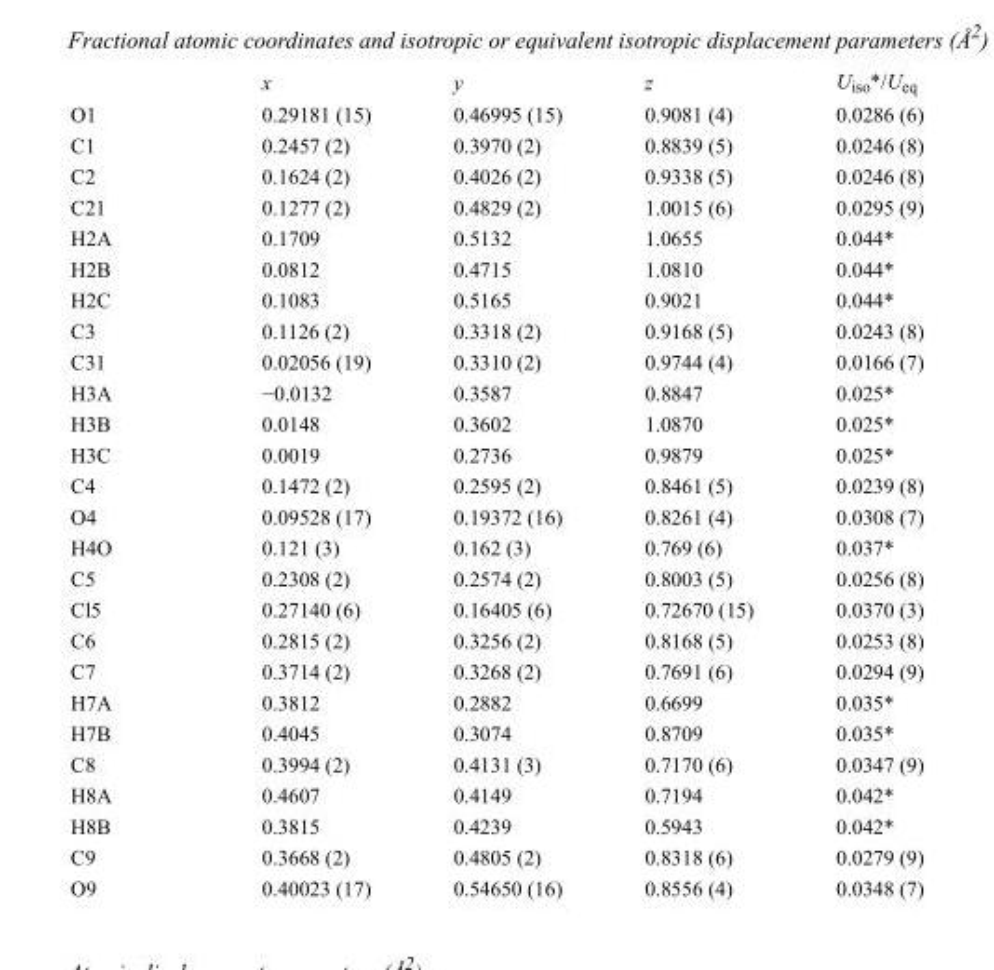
<table><thead><tr><td></td><td>x</td><td>y</td><td>z</td><td>U<sub>iso</sub>*/U<sub>eq</sub></td></tr></thead><tbody><tr><td>O1</td><td>0.29181 (15)</td><td>0.46995 (15)</td><td>0.9081 (4)</td><td>0.0286 (6)</td></tr><tr><td>C1</td><td>0.2457 (2)</td><td>0.3970 (2)</td><td>0.8839 (5)</td><td>0.0246 (8)</td></tr><tr><td>C2</td><td>0.1624 (2)</td><td>0.4026 (2)</td><td>0.9338 (5)</td><td>0.0246 (8)</td></tr><tr><td>C21</td><td>0.1277 (2)</td><td>0.4829 (2)</td><td>1.0015 (6)</td><td>0.0295 (9)</td></tr><tr><td>H2A</td><td>0.1709</td><td>0.5132</td><td>1.0655</td><td>0.044*</td></tr><tr><td>H2B</td><td>0.0812</td><td>0.4715</td><td>1.0810</td><td>0.044*</td></tr><tr><td>H2C</td><td>0.1083</td><td>0.5165</td><td>0.9021</td><td>0.044*</td></tr><tr><td>C3</td><td>0.1126 (2)</td><td>0.3318 (2)</td><td>0.9168 (5)</td><td>0.0243 (8)</td></tr><tr><td>C31</td><td>0.02056 (19)</td><td>0.3310 (2)</td><td>0.9744 (4)</td><td>0.0166 (7)</td></tr><tr><td>H3A</td><td>−0.0132</td><td>0.3587</td><td>0.8847</td><td>0.025*</td></tr><tr><td>H3B</td><td>0.0148</td><td>0.3602</td><td>1.0870</td><td>0.025*</td></tr><tr><td>H3C</td><td>0.0019</td><td>0.2736</td><td>0.9879</td><td>0.025*</td></tr><tr><td>C4</td><td>0.1472 (2)</td><td>0.2595 (2)</td><td>0.8461 (5)</td><td>0.0239 (8)</td></tr><tr><td>O4</td><td>0.09528 (17)</td><td>0.19372 (16)</td><td>0.8261 (4)</td><td>0.0308 (7)</td></tr><tr><td>H4O</td><td>0.121 (3)</td><td>0.162 (3)</td><td>0.769 (6)</td><td>0.037*</td></tr><tr><td>C5</td><td>0.2308 (2)</td><td>0.2574 (2)</td><td>0.8003 (5)</td><td>0.0256 (8)</td></tr><tr><td>Cl5</td><td>0.27140 (6)</td><td>0.16405 (6)</td><td>0.72670 (15)</td><td>0.0370 (3)</td></tr><tr><td>C6</td><td>0.2815 (2)</td><td>0.3256 (2)</td><td>0.8168 (5)</td><td>0.0253 (8)</td></tr><tr><td>C7</td><td>0.3714 (2)</td><td>0.3268 (2)</td><td>0.7691 (6)</td><td>0.0294 (9)</td></tr><tr><td>H7A</td><td>0.3812</td><td>0.2882</td><td>0.6699</td><td>0.035*</td></tr><tr><td>H7B</td><td>0.4045</td><td>0.3074</td><td>0.8709</td><td>0.035*</td></tr><tr><td>C8</td><td>0.3994 (2)</td><td>0.4131 (3)</td><td>0.7170 (6)</td><td>0.0347 (9)</td></tr><tr><td>H8A</td><td>0.4607</td><td>0.4149</td><td>0.7194</td><td>0.042*</td></tr><tr><td>H8B</td><td>0.3815</td><td>0.4239</td><td>0.5943</td><td>0.042*</td></tr><tr><td>C9</td><td>0.3668 (2)</td><td>0.4805 (2)</td><td>0.8318 (6)</td><td>0.0279 (9)</td></tr><tr><td>O9</td><td>0.40023 (17)</td><td>0.54650 (16)</td><td>0.8556 (4)</td><td>0.0348 (7)</td></tr></tbody></table>